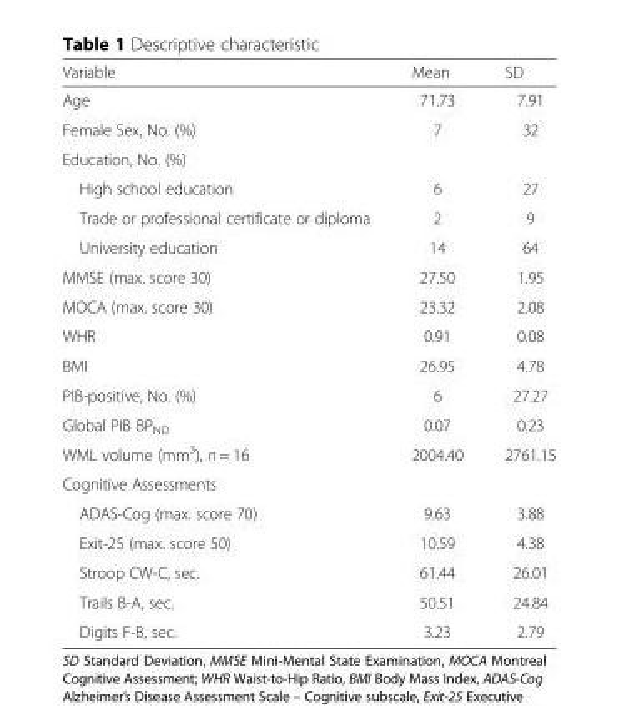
<table><thead><tr><td>Variable</td><td>Mean</td><td>SD</td></tr></thead><tbody><tr><td>Age</td><td>71.73</td><td>7.91</td></tr><tr><td>Female Sex, No. (%)</td><td>7</td><td>32</td></tr><tr><td colspan="3">Education, No. (%)</td></tr><tr><td>High school education</td><td>6</td><td>27</td></tr><tr><td>Trade or professional certificate or diploma</td><td>2</td><td>9</td></tr><tr><td>University education</td><td>14</td><td>64</td></tr><tr><td>MMSE (max. score 30)</td><td>27.50</td><td>1.95</td></tr><tr><td>MOCA (max. score 30)</td><td>23.32</td><td>2.08</td></tr><tr><td>WHR</td><td>0.91</td><td>0.08</td></tr><tr><td>BMI</td><td>26.95</td><td>4.78</td></tr><tr><td>PIB-positive, No. (%)</td><td>6</td><td>27.27</td></tr><tr><td>Global PIB BP<sub>ND</sub></td><td>0.07</td><td>0.23</td></tr><tr><td>WML volume (mm<sup>3</sup>), n = 16</td><td>2004.40</td><td>2761.15</td></tr><tr><td colspan="3">Cognitive Assessments</td></tr><tr><td>ADAS-Cog (max. score 70)</td><td>9.63</td><td>3.88</td></tr><tr><td>Exit-25 (max. score 50)</td><td>10.59</td><td>4.38</td></tr><tr><td>Stroop CW-C, sec.</td><td>61.44</td><td>26.01</td></tr><tr><td>Trails B-A, sec.</td><td>50.51</td><td>24.84</td></tr><tr><td>Digits F-B, sec.</td><td>3.23</td><td>2.79</td></tr></tbody></table>